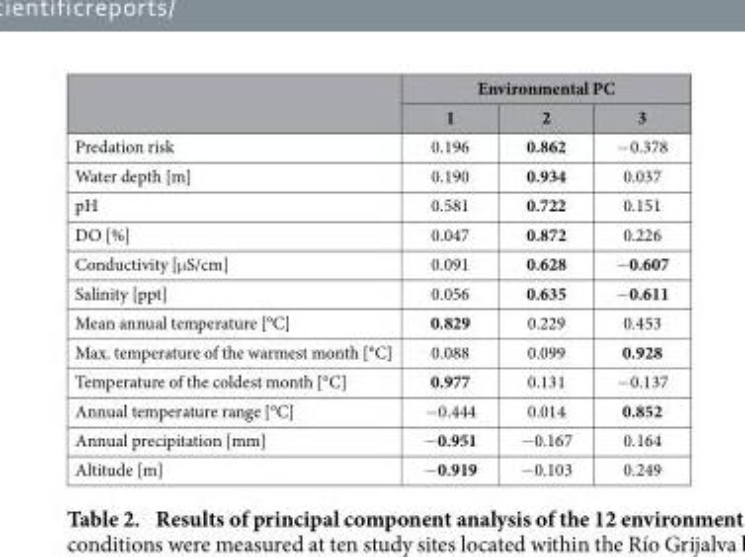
<table><thead><tr><td rowspan="2"></td><td colspan="3">Environmental PC</td></tr><tr><td>1</td><td>2</td><td>3</td></tr></thead><tbody><tr><td>Predation risk</td><td>0.196</td><td>0.862</td><td>− 0.378</td></tr><tr><td>Water depth [m]</td><td>0.190</td><td>0.934</td><td>0.037</td></tr><tr><td>pH</td><td>0.581</td><td>0.722</td><td>0.151</td></tr><tr><td>DO [%]</td><td>0.047</td><td>0.872</td><td>0.226</td></tr><tr><td>Conductivity [μ S/cm]</td><td>0.091</td><td>0.628</td><td>− 0.607</td></tr><tr><td>Salinity [ppt]</td><td>0.056</td><td>0.635</td><td>− 0.611</td></tr><tr><td>Mean annual temperature [°C]</td><td>0.829</td><td>0.229</td><td>0.453</td></tr><tr><td>Max. temperature of the warmest month [°C]</td><td>0.088</td><td>0.099</td><td>0.928</td></tr><tr><td>Temperature of the coldest month [°C]</td><td>0.977</td><td>0.131</td><td>− 0.137</td></tr><tr><td>Annual temperature range [°C]</td><td>− 0.444</td><td>0.014</td><td>0.852</td></tr><tr><td>Annual precipitation [mm]</td><td>− 0.951</td><td>− 0.167</td><td>0.164</td></tr><tr><td>Altitude [m]</td><td>− 0.919</td><td>− 0.103</td><td>0.249</td></tr></tbody></table>